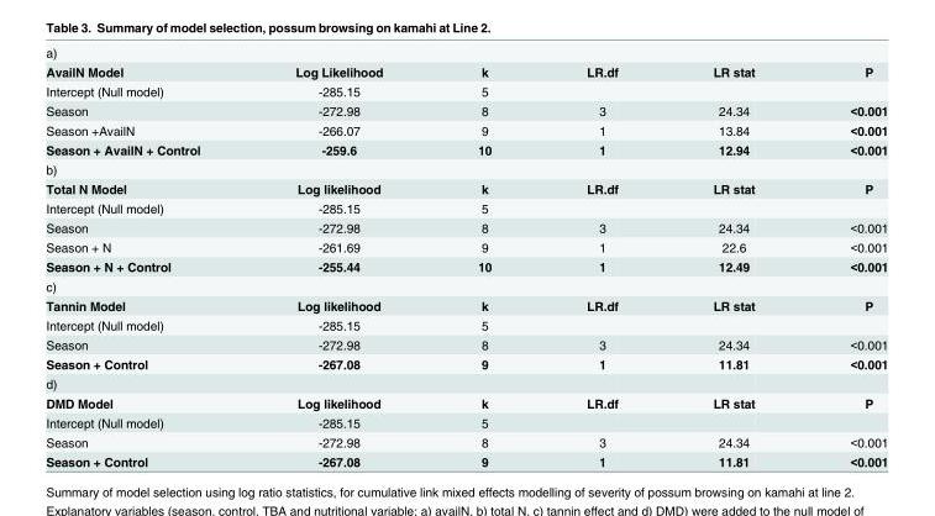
<table><tbody><tr><td colspan="6">a)</td></tr><tr><td>AvailN Model</td><td>Log Likelihood</td><td>k</td><td>LR.df</td><td>LR stat</td><td>P</td></tr><tr><td>Intercept (Null model)</td><td>-285.15</td><td>5</td><td></td><td></td><td></td></tr><tr><td>Season</td><td>-272.98</td><td>8</td><td>3</td><td>24.34</td><td>&lt;0.001</td></tr><tr><td>Season +AvailN</td><td>-266.07</td><td>9</td><td>1</td><td>13.84</td><td>&lt;0.001</td></tr><tr><td>Season + AvailN + Control</td><td>-259.6</td><td>10</td><td>1</td><td>12.94</td><td>&lt;0.001</td></tr><tr><td colspan="6">b)</td></tr><tr><td>Total N Model</td><td>Log likelihood</td><td>k</td><td>LR.df</td><td>LR stat</td><td>P</td></tr><tr><td>Intercept (Null model)</td><td>-285.15</td><td>5</td><td></td><td></td><td></td></tr><tr><td>Season</td><td>-272.98</td><td>8</td><td>3</td><td>24.34</td><td>&lt;0.001</td></tr><tr><td>Season + N</td><td>-261.69</td><td>9</td><td>1</td><td>22.6</td><td>&lt;0.001</td></tr><tr><td>Season + N + Control</td><td>-255.44</td><td>10</td><td>1</td><td>12.49</td><td>&lt;0.001</td></tr><tr><td colspan="6">c)</td></tr><tr><td>Tannin Model</td><td>Log likelihood</td><td>k</td><td>LR.df</td><td>LR stat</td><td>P</td></tr><tr><td>Intercept (Null model)</td><td>-285.15</td><td>5</td><td></td><td></td><td></td></tr><tr><td>Season</td><td>-272.98</td><td>8</td><td>3</td><td>24.34</td><td>&lt;0.001</td></tr><tr><td>Season + Control</td><td>-267.08</td><td>9</td><td>1</td><td>11.81</td><td>&lt;0.001</td></tr><tr><td colspan="6">d)</td></tr><tr><td>DMD Model</td><td>Log likelihood</td><td>k</td><td>LR.df</td><td>LR stat</td><td>P</td></tr><tr><td>Intercept (Null model)</td><td>-285.15</td><td>5</td><td></td><td></td><td></td></tr><tr><td>Season</td><td>-272.98</td><td>8</td><td>3</td><td>24.34</td><td>&lt;0.001</td></tr><tr><td>Season + Control</td><td>-267.08</td><td>9</td><td>1</td><td>11.81</td><td>&lt;0.001</td></tr></tbody></table>